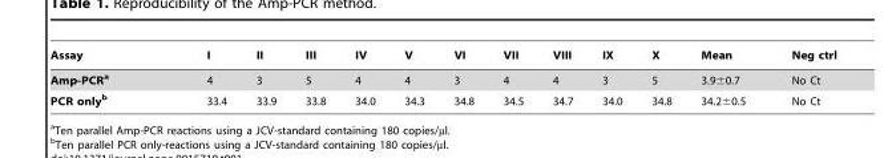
<table><thead><tr><td>Assay</td><td>I</td><td>II</td><td>III</td><td>IV</td><td>V</td><td>VI</td><td>VII</td><td>VIII</td><td>IX</td><td>X</td><td>Mean</td><td>Neg ctrl</td></tr></thead><tbody><tr><td>Amp-PCRa</td><td>4</td><td>3</td><td>5</td><td>4</td><td>4</td><td>3</td><td>4</td><td>4</td><td>3</td><td>5</td><td>3.9±0.7</td><td>No Ct</td></tr><tr><td>PCR onlyb</td><td>33.4</td><td>33.9</td><td>33.8</td><td>34.0</td><td>34.3</td><td>34.8</td><td>34.5</td><td>34.7</td><td>34.0</td><td>34.8</td><td>34.2±0.5</td><td>No Ct</td></tr></tbody></table>